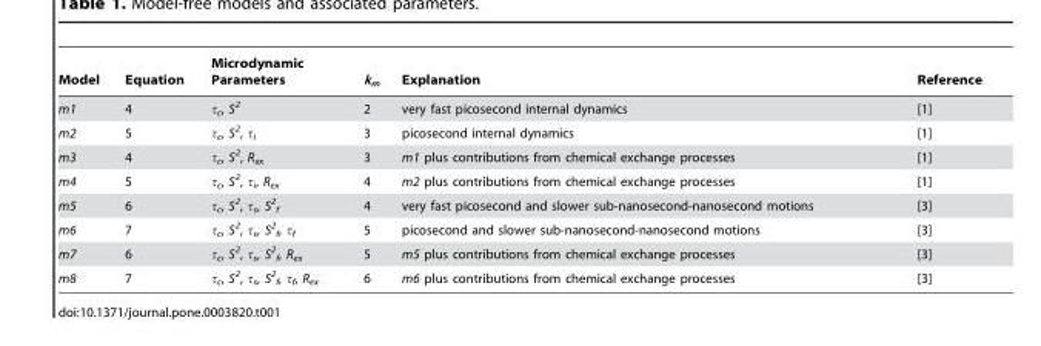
<table><thead><tr><td>Model</td><td>Equation</td><td>Microdynamic Parameters</td><td>k<sub>m</sub></td><td>Explanation</td><td>Reference</td></tr></thead><tbody><tr><td>m1</td><td>4</td><td>τ<sub>c</sub>, S<sup>2</sup></td><td>2</td><td>very fast picosecond internal dynamics</td><td>[1]</td></tr><tr><td>m2</td><td>5</td><td>τ<sub>c</sub>, S<sup>2</sup>, τ<sub>i</sub></td><td>3</td><td>picosecond internal dynamics</td><td>[1]</td></tr><tr><td>m3</td><td>4</td><td>τ<sub>c</sub>, S<sup>2</sup>, R<sub>ex</sub></td><td>3</td><td>m1 plus contributions from chemical exchange processes</td><td>[1]</td></tr><tr><td>m4</td><td>5</td><td>τ<sub>c</sub>, S<sup>2</sup>, τ<sub>i</sub>, R<sub>ex</sub></td><td>4</td><td>m2 plus contributions from chemical exchange processes</td><td>[1]</td></tr><tr><td>m5</td><td>6</td><td>τ<sub>c</sub>, S<sup>2</sup>, τ<sub>s</sub>, S<sup>2</sup> <sub>f</sub></td><td>4</td><td>very fast picosecond and slower sub-nanosecond-nanosecond motions</td><td>[3]</td></tr><tr><td>m6</td><td>7</td><td>τ<sub>c</sub>, S<sup>2</sup>, τ<sub>s</sub>, S<sup>2</sup> <sub>f</sub>, τ<sub>f</sub></td><td>5</td><td>picosecond and slower sub-nanosecond-nanosecond motions</td><td>[3]</td></tr><tr><td>m7</td><td>6</td><td>τ<sub>c</sub>, S<sup>2</sup>, τ<sub>s</sub>, S<sup>2</sup> <sub>f</sub>, R<sub>ex</sub></td><td>5</td><td>m5 plus contributions from chemical exchange processes</td><td>[3]</td></tr><tr><td>m8</td><td>7</td><td>τ<sub>c</sub>, S<sup>2</sup>, τ<sub>s</sub>, S<sup>2</sup> <sub>f</sub>, τ<sub>f</sub>, R<sub>ex</sub></td><td>6</td><td>m6 plus contributions from chemical exchange processes</td><td>[3]</td></tr></tbody></table>